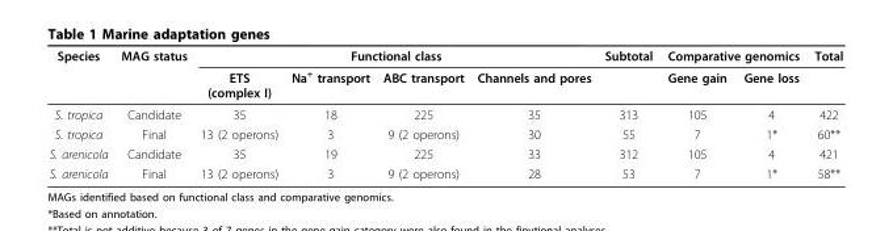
<table><thead><tr><td rowspan="2">Species</td><td rowspan="2">MAG status</td><td colspan="4">Functional class</td><td rowspan="2">Subtotal</td><td colspan="2">Comparative genomics</td><td rowspan="2">Total</td></tr><tr><td>ETS (complex I)</td><td>Na<sup>+</sup> transport</td><td>ABC transport</td><td>Channels and pores</td><td>Gene gain</td><td>Gene loss</td></tr></thead><tbody><tr><td>S. tropica</td><td>Candidate</td><td>35</td><td>18</td><td>225</td><td>35</td><td>313</td><td>105</td><td>4</td><td>422</td></tr><tr><td>S. tropica</td><td>Final</td><td>13 (2 operons)</td><td>3</td><td>9 (2 operons)</td><td>30</td><td>55</td><td>7</td><td>1*</td><td>60**</td></tr><tr><td>S. arenicola</td><td>Candidate</td><td>35</td><td>19</td><td>225</td><td>33</td><td>312</td><td>105</td><td>4</td><td>421</td></tr><tr><td>S. arenicola</td><td>Final</td><td>13 (2 operons)</td><td>3</td><td>9 (2 operons)</td><td>28</td><td>53</td><td>7</td><td>1*</td><td>58**</td></tr></tbody></table>